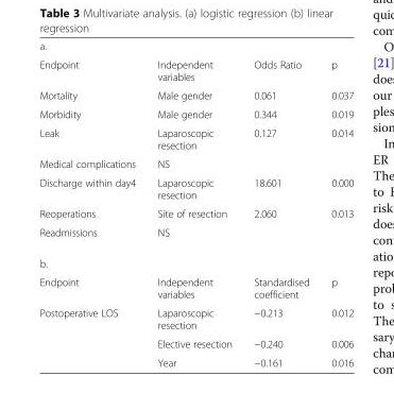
<table><tbody><tr><td colspan="4">a.</td></tr><tr><td>Endpoint</td><td>Independent variables</td><td>Odds Ratio</td><td>p</td></tr><tr><td>Mortality</td><td>Male gender</td><td>0.061</td><td>0.037</td></tr><tr><td>Morbidity</td><td>Male gender</td><td>0.344</td><td>0.019</td></tr><tr><td>Leak</td><td>Laparoscopic resection</td><td>0.127</td><td>0.014</td></tr><tr><td>Medical complications</td><td>NS</td><td></td><td></td></tr><tr><td>Discharge within day4</td><td>Laparoscopic resection</td><td>18.601</td><td>0.000</td></tr><tr><td>Reoperations</td><td>Site of resection</td><td>2.060</td><td>0.013</td></tr><tr><td>Readmissions</td><td>NS</td><td></td><td></td></tr><tr><td colspan="4">b.</td></tr><tr><td>Endpoint</td><td>Independent variables</td><td>Standardised coefficient</td><td>p</td></tr><tr><td rowspan="3">Postoperative LOS</td><td>Laparoscopic resection</td><td>−0.213</td><td>0.012</td></tr><tr><td>Elective resection</td><td>−0.240</td><td>0.006</td></tr><tr><td>Year</td><td>−0.161</td><td>0.016</td></tr></tbody></table>